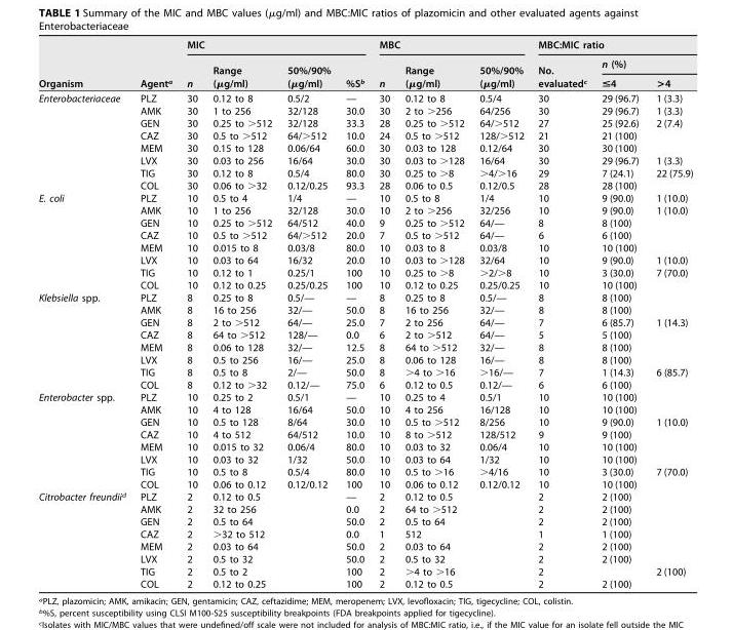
<table><thead><tr><td rowspan="3">Organism</td><td rowspan="3">Agent<sup>a</sup></td><td colspan="4">MIC</td><td colspan="3">MBC</td><td colspan="3">MBC:MIC ratio</td></tr><tr><td rowspan="2">n</td><td rowspan="2">Range (μg/ml)</td><td rowspan="2">50%/90% (μg/ml)</td><td rowspan="2">%S<sup>b</sup></td><td rowspan="2">n</td><td rowspan="2">Range (μg/ml)</td><td rowspan="2">50%/90% (μg/ml)</td><td rowspan="2">No. evaluated<sup>c</sup></td><td colspan="2">n (%)</td></tr><tr><td>&lt;4</td><td>&gt;4</td></tr></thead><tbody><tr><td rowspan="8">Enterobacteriaceae</td><td>PLZ</td><td>30</td><td>0.12 to 8</td><td>0.5/2</td><td>—</td><td>30</td><td>0.12 to 8</td><td>0.5/4</td><td>30</td><td>29 (96.7)</td><td>1 (3.3)</td></tr><tr><td>AMK</td><td>30</td><td>1 to 256</td><td>32/128</td><td>30.0</td><td>30</td><td>2 to &gt;256</td><td>64/256</td><td>30</td><td>29 (96.7)</td><td>1 (3.3)</td></tr><tr><td>GEN</td><td>30</td><td>0.25 to &gt;512</td><td>32/128</td><td>33.3</td><td>28</td><td>0.25 to &gt;512</td><td>64/&gt;512</td><td>27</td><td>25 (92.6)</td><td>2 (7.4)</td></tr><tr><td>CAZ</td><td>30</td><td>0.5 to &gt;512</td><td>64/&gt;512</td><td>10.0</td><td>24</td><td>0.5 to &gt;512</td><td>128/&gt;512</td><td>21</td><td>21 (100)</td><td></td></tr><tr><td>MEM</td><td>30</td><td>0.15 to 128</td><td>0.06/64</td><td>60.0</td><td>30</td><td>0.03 to 128</td><td>0.12/64</td><td>30</td><td>30 (100)</td><td></td></tr><tr><td>LVX</td><td>30</td><td>0.03 to 256</td><td>16/64</td><td>30.0</td><td>30</td><td>0.03 to &gt;128</td><td>16/64</td><td>30</td><td>29 (96.7)</td><td>1 (3.3)</td></tr><tr><td>TIG</td><td>30</td><td>0.12 to 8</td><td>0.5/4</td><td>80.0</td><td>30</td><td>0.25 to &gt;8</td><td>&gt;4/&gt;16</td><td>29</td><td>7 (24.1)</td><td>22 (75.9)</td></tr><tr><td>COL</td><td>30</td><td>0.06 to &gt;32</td><td>0.12/0.25</td><td>93.3</td><td>28</td><td>0.06 to 0.5</td><td>0.12/0.5</td><td>28</td><td>28 (100)</td><td></td></tr><tr><td rowspan="8">E. coli</td><td>PLZ</td><td>10</td><td>0.5 to 4</td><td>1/4</td><td>—</td><td>10</td><td>0.5 to 8</td><td>1/4</td><td>10</td><td>9 (90.0)</td><td>1 (10.0)</td></tr><tr><td>AMK</td><td>10</td><td>1 to 256</td><td>32/128</td><td>30.0</td><td>10</td><td>2 to &gt;256</td><td>32/256</td><td>10</td><td>9 (90.0)</td><td>1 (10.0)</td></tr><tr><td>GEN</td><td>10</td><td>0.25 to &gt;512</td><td>64/512</td><td>40.0</td><td>9</td><td>0.25 to &gt;512</td><td>64/—</td><td>8</td><td>8 (100)</td><td></td></tr><tr><td>CAZ</td><td>10</td><td>0.5 to &gt;512</td><td>64/&gt;512</td><td>20.0</td><td>7</td><td>0.5 to &gt;512</td><td>64/—</td><td>6</td><td>6 (100)</td><td></td></tr><tr><td>MEM</td><td>10</td><td>0.015 to 8</td><td>0.03/8</td><td>80.0</td><td>10</td><td>0.03 to 8</td><td>0.03/8</td><td>10</td><td>10 (100)</td><td></td></tr><tr><td>LVX</td><td>10</td><td>0.03 to 64</td><td>16/32</td><td>20.0</td><td>10</td><td>0.03 to &gt;128</td><td>32/64</td><td>10</td><td>9 (90.0)</td><td>1 (10.0)</td></tr><tr><td>TIG</td><td>10</td><td>0.12 to 1</td><td>0.25/1</td><td>100</td><td>10</td><td>0.25 to &gt;8</td><td>&gt;2/&gt;8</td><td>10</td><td>3 (30.0)</td><td>7 (70.0)</td></tr><tr><td>COL</td><td>10</td><td>0.12 to 0.25</td><td>0.25/0.25</td><td>100</td><td>10</td><td>0.12 to 0.25</td><td>0.25/0.25</td><td>10</td><td>10 (100)</td><td></td></tr><tr><td rowspan="8">Klebsiella spp.</td><td>PLZ</td><td>8</td><td>0.25 to 8</td><td>0.5/—</td><td>—</td><td>8</td><td>0.25 to 8</td><td>0.5/—</td><td>8</td><td>8 (100)</td><td></td></tr><tr><td>AMK</td><td>8</td><td>16 to 256</td><td>32/—</td><td>50.0</td><td>8</td><td>16 to 256</td><td>32/—</td><td>8</td><td>8 (100)</td><td></td></tr><tr><td>GEN</td><td>8</td><td>2 to &gt;512</td><td>64/—</td><td>25.0</td><td>7</td><td>2 to 256</td><td>64/—</td><td>7</td><td>6 (85.7)</td><td>1 (14.3)</td></tr><tr><td>CAZ</td><td>8</td><td>64 to &gt;512</td><td>128/—</td><td>0.0</td><td>6</td><td>2 to &gt;512</td><td>64/—</td><td>5</td><td>5 (100)</td><td></td></tr><tr><td>MEM</td><td>8</td><td>0.06 to 128</td><td>32/—</td><td>12.5</td><td>8</td><td>64 to &gt;512</td><td>32/—</td><td>8</td><td>8 (100)</td><td></td></tr><tr><td>LVX</td><td>8</td><td>0.5 to 256</td><td>16/—</td><td>25.0</td><td>8</td><td>0.06 to 128</td><td>16/—</td><td>8</td><td>8 (100)</td><td></td></tr><tr><td>TIG</td><td>8</td><td>0.5 to 8</td><td>2/—</td><td>50.0</td><td>8</td><td>&gt;4 to &gt;16</td><td>&gt;16/—</td><td>7</td><td>1 (14.3)</td><td>6 (85.7)</td></tr><tr><td>COL</td><td>8</td><td>0.12 to &gt;32</td><td>0.12/—</td><td>75.0</td><td>6</td><td>0.12 to 0.5</td><td>0.12/—</td><td>6</td><td>6 (100)</td><td></td></tr><tr><td rowspan="8">Enterobacter spp.</td><td>PLZ</td><td>10</td><td>0.25 to 2</td><td>0.5/1</td><td>—</td><td>10</td><td>0.25 to 4</td><td>0.5/1</td><td>10</td><td>10 (100)</td><td></td></tr><tr><td>AMK</td><td>10</td><td>4 to 128</td><td>16/64</td><td>50.0</td><td>10</td><td>4 to 256</td><td>16/128</td><td>10</td><td>10 (100)</td><td></td></tr><tr><td>GEN</td><td>10</td><td>0.5 to 128</td><td>8/64</td><td>30.0</td><td>10</td><td>0.5 to &gt;512</td><td>8/256</td><td>10</td><td>9 (90.0)</td><td>1 (10.0)</td></tr><tr><td>CAZ</td><td>10</td><td>4 to 512</td><td>64/512</td><td>10.0</td><td>10</td><td>8 to &gt;512</td><td>128/512</td><td>9</td><td>9 (100)</td><td></td></tr><tr><td>MEM</td><td>10</td><td>0.015 to 32</td><td>0.06/4</td><td>80.0</td><td>10</td><td>0.03 to 32</td><td>0.06/4</td><td>10</td><td>10 (100)</td><td></td></tr><tr><td>LVX</td><td>10</td><td>0.03 to 32</td><td>1/32</td><td>50.0</td><td>10</td><td>0.03 to 64</td><td>1/32</td><td>10</td><td>10 (100)</td><td></td></tr><tr><td>TIG</td><td>10</td><td>0.5 to 8</td><td>0.5/4</td><td>80.0</td><td>10</td><td>0.5 to &gt;16</td><td>&gt;4/16</td><td>10</td><td>3 (30.0)</td><td>7 (70.0)</td></tr><tr><td>COL</td><td>10</td><td>0.06 to 0.12</td><td>0.12/0.12</td><td>100</td><td>10</td><td>0.06 to 0.12</td><td>0.12/0.12</td><td>10</td><td>10 (100)</td><td></td></tr><tr><td rowspan="8">Citrobacter freundii<sup>d</sup></td><td>PLZ</td><td>2</td><td>0.12 to 0.5</td><td></td><td>—</td><td>2</td><td>0.12 to 0.5</td><td></td><td>2</td><td>2 (100)</td><td></td></tr><tr><td>AMK</td><td>2</td><td>32 to 256</td><td></td><td>0.0</td><td>2</td><td>64 to &gt;512</td><td></td><td>2</td><td>2 (100)</td><td></td></tr><tr><td>GEN</td><td>2</td><td>0.5 to 64</td><td></td><td>50.0</td><td>2</td><td>0.5 to 64</td><td></td><td>2</td><td>2 (100)</td><td></td></tr><tr><td>CAZ</td><td>2</td><td>&gt;32 to 512</td><td></td><td>0.0</td><td>1</td><td>512</td><td></td><td>1</td><td>1 (100)</td><td></td></tr><tr><td>MEM</td><td>2</td><td>0.03 to 64</td><td></td><td>50.0</td><td>2</td><td>0.03 to 64</td><td></td><td>2</td><td>2 (100)</td><td></td></tr><tr><td>LVX</td><td>2</td><td>0.5 to 32</td><td></td><td>50.0</td><td>2</td><td>0.5 to 32</td><td></td><td>2</td><td>2 (100)</td><td></td></tr><tr><td>TIG</td><td>2</td><td>0.5 to 2</td><td></td><td>100</td><td>2</td><td>&gt;4 to &gt;16</td><td></td><td>2</td><td></td><td>2 (100)</td></tr><tr><td>COL</td><td>2</td><td>0.12 to 0.25</td><td></td><td>100</td><td>2</td><td>0.12 to 0.5</td><td></td><td>2</td><td>2 (100)</td><td></td></tr></tbody></table>